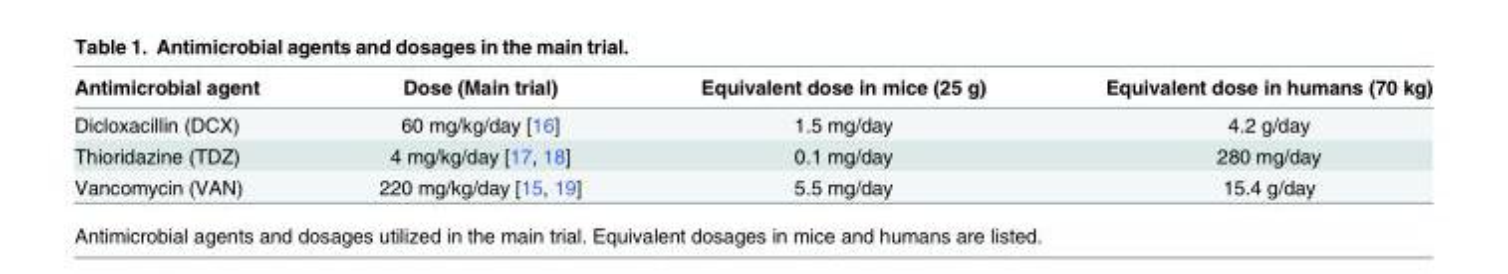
<table><thead><tr><td>Antimicrobial agent</td><td>Dose (Main trial)</td><td>Equivalent dose in mice (25 g)</td><td>Equivalent dose in humans (70 kg)</td></tr></thead><tbody><tr><td>Dicloxacillin (DCX)</td><td>60 mg/kg/day [16]</td><td>1.5 mg/day</td><td>4.2 g/day</td></tr><tr><td>Thioridazine (TDZ)</td><td>4 mg/kg/day [17, 18]</td><td>0.1 mg/day</td><td>280 mg/day</td></tr><tr><td>Vancomycin (VAN)</td><td>220 mg/kg/day [15, 19]</td><td>5.5 mg/day</td><td>15.4 g/day</td></tr></tbody></table>